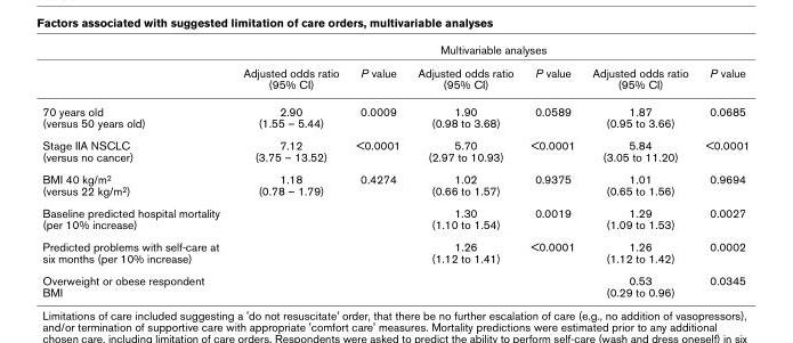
<table><thead><tr><td rowspan="2"></td><td colspan="6">Multivariable analyses</td></tr><tr><td>Adjusted odds ratio (95% CI)</td><td>P value</td><td>Adjusted odds ratio (95% CI)</td><td>P value</td><td>Adjusted odds ratio (95% CI)</td><td>P value</td></tr></thead><tbody><tr><td>70 years old (versus 50 years old)</td><td>2.90 (1.55 – 5.44)</td><td>0.0009</td><td>1.90 (0.98 to 3.68)</td><td>0.0589</td><td>1.87 (0.95 to 3.66)</td><td>0.0685</td></tr><tr><td>Stage IIA NSCLC (versus no cancer)</td><td>7.12 (3.75 – 13.52)</td><td>&lt;0.0001</td><td>5.70 (2.97 to 10.93)</td><td>&lt;0.0001</td><td>5.84 (3.05 to 11.20)</td><td>&lt;0.0001</td></tr><tr><td>BMI 40 kg/m<sup>2</sup> (versus 22 kg/m<sup>2</sup>)</td><td>1.18 (0.78 – 1.79)</td><td>0.4274</td><td>1.02 (0.66 to 1.57)</td><td>0.9375</td><td>1.01 (0.65 to 1.56)</td><td>0.9694</td></tr><tr><td>Baseline predicted hospital mortality (per 10% increase)</td><td></td><td></td><td>1.30 (1.10 to 1.54)</td><td>0.0019</td><td>1.29 (1.09 to 1.53)</td><td>0.0027</td></tr><tr><td>Predicted problems with self-care at six months (per 10% increase)</td><td></td><td></td><td>1.26 (1.12 to 1.41)</td><td>&lt;0.0001</td><td>1.26 (1.12 to 1.42)</td><td>0.0002</td></tr><tr><td>Overweight or obese respondent BMI</td><td></td><td></td><td></td><td></td><td>0.53 (0.29 to 0.96)</td><td>0.0345</td></tr></tbody></table>